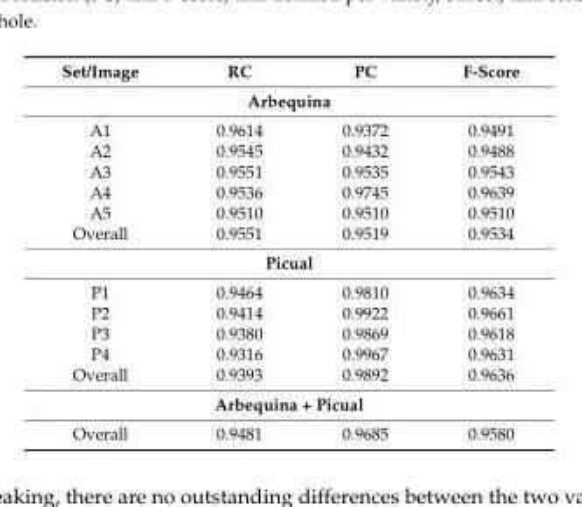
<table><tbody><tr><td>Set/Image</td><td>RC</td><td>PC</td><td>F-Score</td></tr><tr><td colspan="4">Arbequina</td></tr><tr><td>A1</td><td>0.9614</td><td>0.9372</td><td>0.9491</td></tr><tr><td>A2</td><td>0.9545</td><td>0.9432</td><td>0.9488</td></tr><tr><td>A3</td><td>0.9551</td><td>0.9535</td><td>0.9543</td></tr><tr><td>A4</td><td>0.9536</td><td>0.9745</td><td>0.9639</td></tr><tr><td>A5</td><td>0.9510</td><td>0.9510</td><td>0.9510</td></tr><tr><td>Overall</td><td>0.9551</td><td>0.9519</td><td>0.9534</td></tr><tr><td colspan="4">Picual</td></tr><tr><td>P1</td><td>0.9464</td><td>0.9810</td><td>0.9634</td></tr><tr><td>P2</td><td>0.9414</td><td>0.9922</td><td>0.9661</td></tr><tr><td>P3</td><td>0.9380</td><td>0.9869</td><td>0.9618</td></tr><tr><td>P4</td><td>0.9316</td><td>0.9967</td><td>0.9631</td></tr><tr><td>Overall</td><td>0.9393</td><td>0.9892</td><td>0.9636</td></tr><tr><td colspan="4">Arbequina + Picual</td></tr><tr><td>Overall</td><td>0.9481</td><td>0.9685</td><td>0.9580</td></tr></tbody></table>